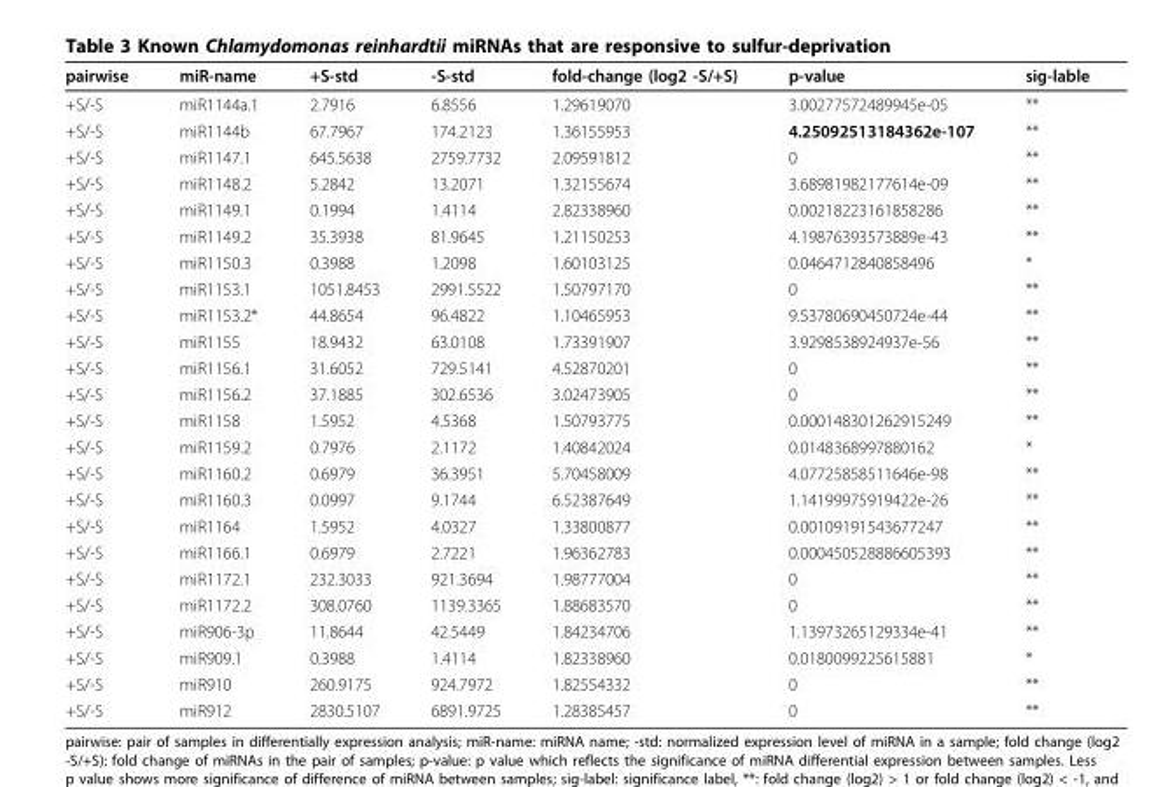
<table><thead><tr><td>pairwise</td><td>miR-name</td><td>+S-std</td><td>-S-std</td><td>fold-change (log2 -S/+S)</td><td>p-value</td><td>sig-lable</td></tr></thead><tbody><tr><td>+S/-S</td><td>miR1144a.1</td><td>2.7916</td><td>6.8556</td><td>1.29619070</td><td>3.00277572489945e-05</td><td>**</td></tr><tr><td>+S/-S</td><td>miR1144b</td><td>67.7967</td><td>174.2123</td><td>1.36155953</td><td>4.25092513184362e-107</td><td>**</td></tr><tr><td>+S/-S</td><td>miR1147.1</td><td>645.5638</td><td>2759.7732</td><td>2.09591812</td><td>0</td><td>**</td></tr><tr><td>+S/-S</td><td>miR1148.2</td><td>5.2842</td><td>13.2071</td><td>1.32155674</td><td>3.68981982177614e-09</td><td>**</td></tr><tr><td>+S/-S</td><td>miR1149.1</td><td>0.1994</td><td>1.4114</td><td>2.82338960</td><td>0.00218223161858286</td><td>**</td></tr><tr><td>+S/-S</td><td>miR1149.2</td><td>35.3938</td><td>81.9645</td><td>1.21150253</td><td>4.19876393573889e-43</td><td>**</td></tr><tr><td>+S/-S</td><td>miR1150.3</td><td>0.3988</td><td>1.2098</td><td>1.60103125</td><td>0.0464712840858496</td><td>*</td></tr><tr><td>+S/-S</td><td>miR1153.1</td><td>1051.8453</td><td>2991.5522</td><td>1.50797170</td><td>0</td><td>**</td></tr><tr><td>+S/-S</td><td>miR1153.2*</td><td>44.8654</td><td>96.4822</td><td>1.10465953</td><td>9.53780690450724e-44</td><td>**</td></tr><tr><td>+S/-S</td><td>miR1155</td><td>18.9432</td><td>63.0108</td><td>1.73391907</td><td>3.9298538924937e-56</td><td>**</td></tr><tr><td>+S/-S</td><td>miR1156.1</td><td>31.6052</td><td>729.5141</td><td>4.52870201</td><td>0</td><td>**</td></tr><tr><td>+S/-S</td><td>miR1156.2</td><td>37.1885</td><td>302.6536</td><td>3.02473905</td><td>0</td><td>**</td></tr><tr><td>+S/-S</td><td>miR1158</td><td>1.5952</td><td>4.5368</td><td>1.50793775</td><td>0.000148301262915249</td><td>**</td></tr><tr><td>+S/-S</td><td>miR1159.2</td><td>0.7976</td><td>2.1172</td><td>1.40842024</td><td>0.0148368997880162</td><td>*</td></tr><tr><td>+S/-S</td><td>miR1160.2</td><td>0.6979</td><td>36.3951</td><td>5.70458009</td><td>4.07725858511646e-98</td><td>**</td></tr><tr><td>+S/-S</td><td>miR1160.3</td><td>0.0997</td><td>9.1744</td><td>6.52387649</td><td>1.14199975919422e-26</td><td>**</td></tr><tr><td>+S/-S</td><td>miR1164</td><td>1.5952</td><td>4.0327</td><td>1.33800877</td><td>0.00109191543677247</td><td>**</td></tr><tr><td>+S/-S</td><td>miR1166.1</td><td>0.6979</td><td>2.7221</td><td>1.96362783</td><td>0.000450528886605393</td><td>**</td></tr><tr><td>+S/-S</td><td>miR1172.1</td><td>232.3033</td><td>921.3694</td><td>1.98777004</td><td>0</td><td>**</td></tr><tr><td>+S/-S</td><td>miR1172.2</td><td>308.0760</td><td>1139.3365</td><td>1.88683570</td><td>0</td><td>**</td></tr><tr><td>+S/-S</td><td>miR906-3p</td><td>11.8644</td><td>42.5449</td><td>1.84234706</td><td>1.13973265129334e-41</td><td>**</td></tr><tr><td>+S/-S</td><td>miR909.1</td><td>0.3988</td><td>1.4114</td><td>1.82338960</td><td>0.0180099225615881</td><td>*</td></tr><tr><td>+S/-S</td><td>miR910</td><td>260.9175</td><td>924.7972</td><td>1.82554332</td><td>0</td><td>**</td></tr><tr><td>+S/-S</td><td>miR912</td><td>2830.5107</td><td>6891.9725</td><td>1.28385457</td><td>0</td><td>**</td></tr></tbody></table>